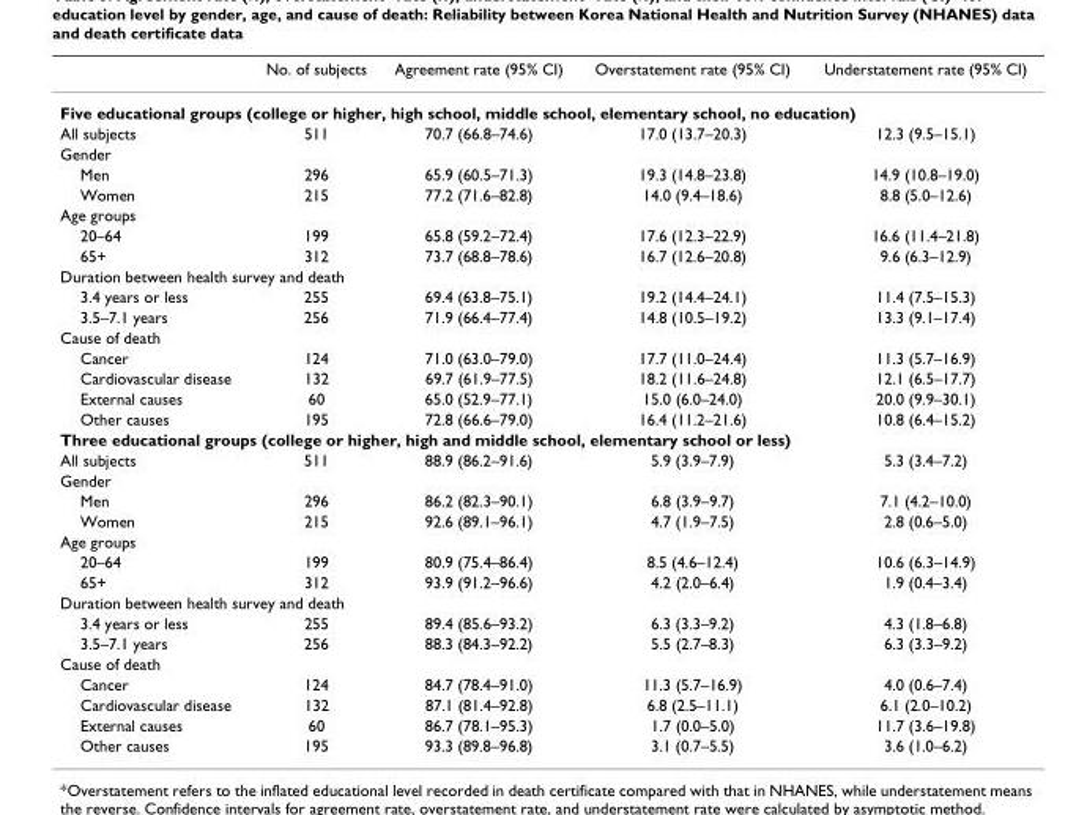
<table><thead><tr><td></td><td>No. of subjects</td><td>Agreement rate (95% CI)</td><td>Overstatement rate (95% CI)</td><td>Understatement rate (95% CI)</td></tr></thead><tbody><tr><td colspan="5">Five educational groups (college or higher, high school, middle school, elementary school, no education)</td></tr><tr><td>All subjects</td><td>511</td><td>70.7 (66.8–74.6)</td><td>17.0 (13.7–20.3)</td><td>12.3 (9.5–15.1)</td></tr><tr><td colspan="5">Gender</td></tr><tr><td>Men</td><td>296</td><td>65.9 (60.5–71.3)</td><td>19.3 (14.8–23.8)</td><td>14.9 (10.8–19.0)</td></tr><tr><td>Women</td><td>215</td><td>77.2 (71.6–82.8)</td><td>14.0 (9.4–18.6)</td><td>8.8 (5.0–12.6)</td></tr><tr><td colspan="5">Age groups</td></tr><tr><td>20–64</td><td>199</td><td>65.8 (59.2–72.4)</td><td>17.6 (12.3–22.9)</td><td>16.6 (11.4–21.8)</td></tr><tr><td>65+</td><td>312</td><td>73.7 (68.8–78.6)</td><td>16.7 (12.6–20.8)</td><td>9.6 (6.3–12.9)</td></tr><tr><td colspan="5">Duration between health survey and death</td></tr><tr><td>3.4 years or less</td><td>255</td><td>69.4 (63.8–75.1)</td><td>19.2 (14.4–24.1)</td><td>11.4 (7.5–15.3)</td></tr><tr><td>3.5–7.1 years</td><td>256</td><td>71.9 (66.4–77.4)</td><td>14.8 (10.5–19.2)</td><td>13.3 (9.1–17.4)</td></tr><tr><td colspan="5">Cause of death</td></tr><tr><td>Cancer</td><td>124</td><td>71.0 (63.0–79.0)</td><td>17.7 (11.0–24.4)</td><td>11.3 (5.7–16.9)</td></tr><tr><td>Cardiovascular disease</td><td>132</td><td>69.7 (61.9–77.5)</td><td>18.2 (11.6–24.8)</td><td>12.1 (6.5–17.7)</td></tr><tr><td>External causes</td><td>60</td><td>65.0 (52.9–77.1)</td><td>15.0 (6.0–24.0)</td><td>20.0 (9.9–30.1)</td></tr><tr><td>Other causes</td><td>195</td><td>72.8 (66.6–79.0)</td><td>16.4 (11.2–21.6)</td><td>10.8 (6.4–15.2)</td></tr><tr><td colspan="5">Three educational groups (college or higher, high and middle school, elementary school or less)</td></tr><tr><td>All subjects</td><td>511</td><td>88.9 (86.2–91.6)</td><td>5.9 (3.9–7.9)</td><td>5.3 (3.4–7.2)</td></tr><tr><td colspan="5">Gender</td></tr><tr><td>Men</td><td>296</td><td>86.2 (82.3–90.1)</td><td>6.8 (3.9–9.7)</td><td>7.1 (4.2–10.0)</td></tr><tr><td>Women</td><td>215</td><td>92.6 (89.1–96.1)</td><td>4.7 (1.9–7.5)</td><td>2.8 (0.6–5.0)</td></tr><tr><td colspan="5">Age groups</td></tr><tr><td>20–64</td><td>199</td><td>80.9 (75.4–86.4)</td><td>8.5 (4.6–12.4)</td><td>10.6 (6.3–14.9)</td></tr><tr><td>65+</td><td>312</td><td>93.9 (91.2–96.6)</td><td>4.2 (2.0–6.4)</td><td>1.9 (0.4–3.4)</td></tr><tr><td colspan="5">Duration between health survey and death</td></tr><tr><td>3.4 years or less</td><td>255</td><td>89.4 (85.6–93.2)</td><td>6.3 (3.3–9.2)</td><td>4.3 (1.8–6.8)</td></tr><tr><td>3.5–7.1 years</td><td>256</td><td>88.3 (84.3–92.2)</td><td>5.5 (2.7–8.3)</td><td>6.3 (3.3–9.2)</td></tr><tr><td colspan="5">Cause of death</td></tr><tr><td>Cancer</td><td>124</td><td>84.7 (78.4–91.0)</td><td>11.3 (5.7–16.9)</td><td>4.0 (0.6–7.4)</td></tr><tr><td>Cardiovascular disease</td><td>132</td><td>87.1 (81.4–92.8)</td><td>6.8 (2.5–11.1)</td><td>6.1 (2.0–10.2)</td></tr><tr><td>External causes</td><td>60</td><td>86.7 (78.1–95.3)</td><td>1.7 (0.0–5.0)</td><td>11.7 (3.6–19.8)</td></tr><tr><td>Other causes</td><td>195</td><td>93.3 (89.8–96.8)</td><td>3.1 (0.7–5.5)</td><td>3.6 (1.0–6.2)</td></tr></tbody></table>